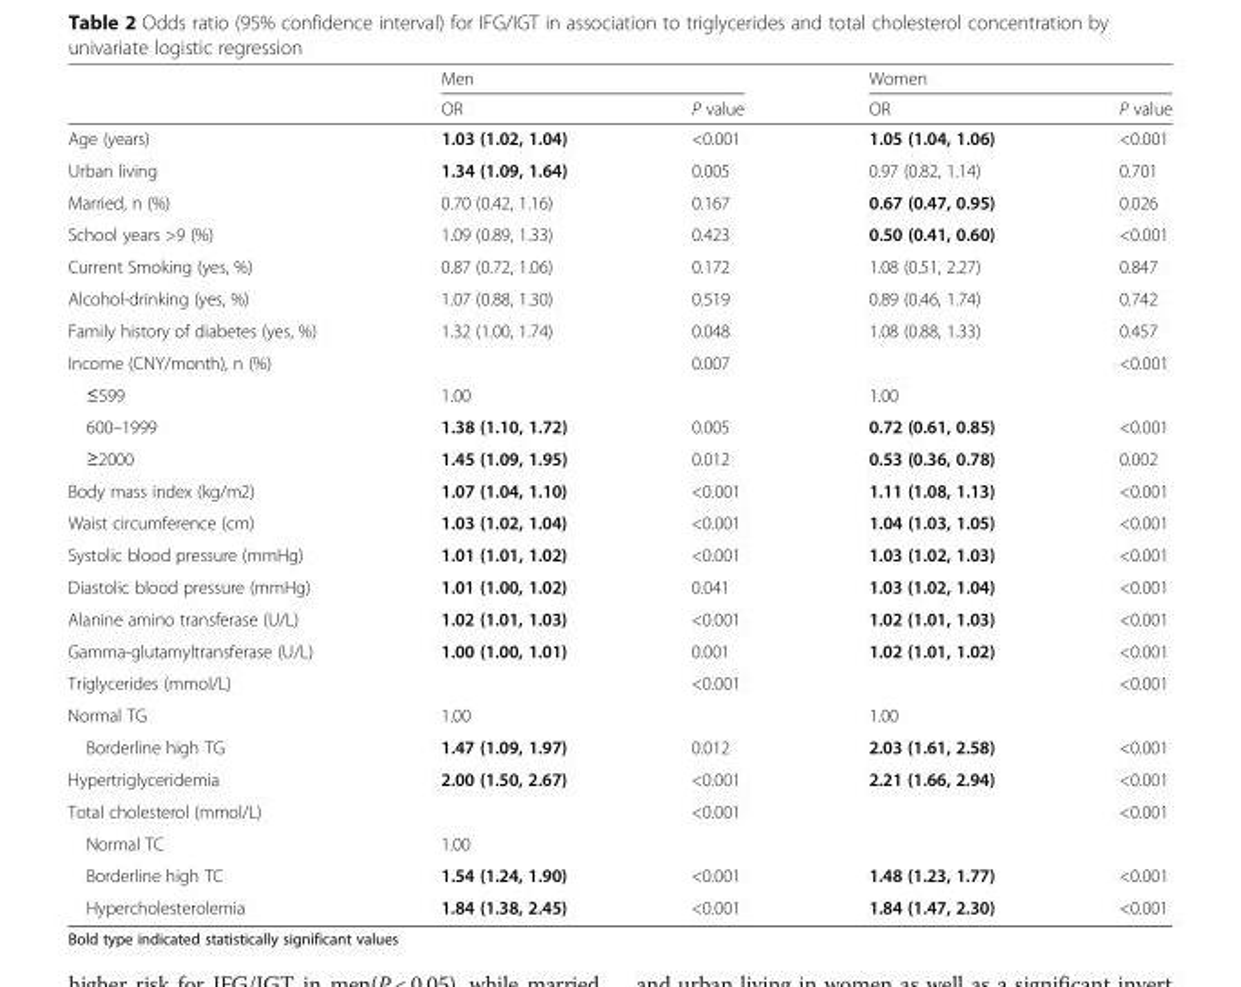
<table><thead><tr><td rowspan="2"></td><td colspan="2">Men</td><td colspan="2">Women</td></tr><tr><td>OR</td><td>P value</td><td>OR</td><td>P value</td></tr></thead><tbody><tr><td>Age (years)</td><td>1.03 (1.02, 1.04)</td><td>&lt;0.001</td><td>1.05 (1.04, 1.06)</td><td>&lt;0.001</td></tr><tr><td>Urban living</td><td>1.34 (1.09, 1.64)</td><td>0.005</td><td>0.97 (0.82, 1.14)</td><td>0.701</td></tr><tr><td>Married, n (%)</td><td>0.70 (0.42, 1.16)</td><td>0.167</td><td>0.67 (0.47, 0.95)</td><td>0.026</td></tr><tr><td>School years &gt;9 (%)</td><td>1.09 (0.89, 1.33)</td><td>0.423</td><td>0.50 (0.41, 0.60)</td><td>&lt;0.001</td></tr><tr><td>Current Smoking (yes, %)</td><td>0.87 (0.72, 1.06)</td><td>0.172</td><td>1.08 (0.51, 2.27)</td><td>0.847</td></tr><tr><td>Alcohol-drinking (yes, %)</td><td>1.07 (0.88, 1.30)</td><td>0.519</td><td>0.89 (0.46, 1.74)</td><td>0.742</td></tr><tr><td>Family history of diabetes (yes, %)</td><td>1.32 (1.00, 1.74)</td><td>0.048</td><td>1.08 (0.88, 1.33)</td><td>0.457</td></tr><tr><td>Income (CNY/month), n (%)</td><td></td><td>0.007</td><td></td><td>&lt;0.001</td></tr><tr><td>≤599</td><td>1.00</td><td></td><td>1.00</td><td></td></tr><tr><td>600–1999</td><td>1.38 (1.10, 1.72)</td><td>0.005</td><td>0.72 (0.61, 0.85)</td><td>&lt;0.001</td></tr><tr><td>≥2000</td><td>1.45 (1.09, 1.95)</td><td>0.012</td><td>0.53 (0.36, 0.78)</td><td>0.002</td></tr><tr><td>Body mass index (kg/m2)</td><td>1.07 (1.04, 1.10)</td><td>&lt;0.001</td><td>1.11 (1.08, 1.13)</td><td>&lt;0.001</td></tr><tr><td>Waist circumference (cm)</td><td>1.03 (1.02, 1.04)</td><td>&lt;0.001</td><td>1.04 (1.03, 1.05)</td><td>&lt;0.001</td></tr><tr><td>Systolic blood pressure (mmHg)</td><td>1.01 (1.01, 1.02)</td><td>&lt;0.001</td><td>1.03 (1.02, 1.03)</td><td>&lt;0.001</td></tr><tr><td>Diastolic blood pressure (mmHg)</td><td>1.01 (1.00, 1.02)</td><td>0.041</td><td>1.03 (1.02, 1.04)</td><td>&lt;0.001</td></tr><tr><td>Alanine amino transferase (U/L)</td><td>1.02 (1.01, 1.03)</td><td>&lt;0.001</td><td>1.02 (1.01, 1.03)</td><td>&lt;0.001</td></tr><tr><td>Gamma-glutamyltransferase (U/L)</td><td>1.00 (1.00, 1.01)</td><td>0.001</td><td>1.02 (1.01, 1.02)</td><td>&lt;0.001</td></tr><tr><td>Triglycerides (mmol/L)</td><td></td><td>&lt;0.001</td><td></td><td>&lt;0.001</td></tr><tr><td>Normal TG</td><td>1.00</td><td></td><td>1.00</td><td></td></tr><tr><td>Borderline high TG</td><td>1.47 (1.09, 1.97)</td><td>0.012</td><td>2.03 (1.61, 2.58)</td><td>&lt;0.001</td></tr><tr><td>Hypertriglyceridemia</td><td>2.00 (1.50, 2.67)</td><td>&lt;0.001</td><td>2.21 (1.66, 2.94)</td><td>&lt;0.001</td></tr><tr><td>Total cholesterol (mmol/L)</td><td></td><td>&lt;0.001</td><td></td><td>&lt;0.001</td></tr><tr><td>Normal TC</td><td>1.00</td><td></td><td></td><td></td></tr><tr><td>Borderline high TC</td><td>1.54 (1.24, 1.90)</td><td>&lt;0.001</td><td>1.48 (1.23, 1.77)</td><td>&lt;0.001</td></tr><tr><td>Hypercholesterolemia</td><td>1.84 (1.38, 2.45)</td><td>&lt;0.001</td><td>1.84 (1.47, 2.30)</td><td>&lt;0.001</td></tr></tbody></table>